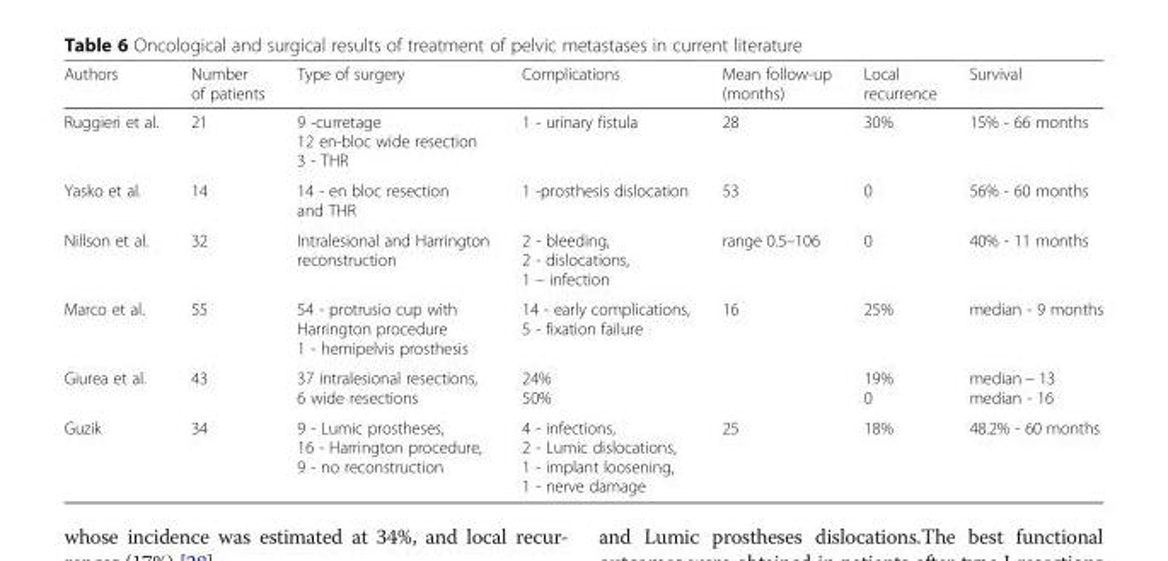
<table><thead><tr><td>Authors</td><td>Number of patients</td><td>Type of surgery</td><td>Complications</td><td>Mean follow-up (months)</td><td>Local recurrence</td><td>Survival</td></tr></thead><tbody><tr><td>Ruggieri et al.</td><td>21</td><td>9 -curretage 12 en-bloc wide resection 3 - THR</td><td>1 - urinary fistula</td><td>28</td><td>30%</td><td>15% - 66 months</td></tr><tr><td>Yasko et al.</td><td>14</td><td>14 - en bloc resection and THR</td><td>1 -prosthesis dislocation</td><td>53</td><td>0</td><td>56% - 60 months</td></tr><tr><td>Nillson et al.</td><td>32</td><td>Intralesional and Harrington reconstruction</td><td>2 - bleeding, 2 - dislocations, 1 – infection</td><td>range 0.5–106</td><td>0</td><td>40% - 11 months</td></tr><tr><td>Marco et al.</td><td>55</td><td>54 - protrusio cup with Harrington procedure 1 - hemipelvis prosthesis</td><td>14 - early complications, 5 - fixation failure</td><td>16</td><td>25%</td><td>median - 9 months</td></tr><tr><td>Giurea et al.</td><td>43</td><td>37 intralesional resections, 6 wide resections</td><td>24% 50%</td><td></td><td>19% 0</td><td>median − 13 median - 16</td></tr><tr><td>Guzik</td><td>34</td><td>9 - Lumic prostheses, 16 - Harrington procedure, 9 - no reconstruction</td><td>4 - infections, 2 - Lumic dislocations, 1 - implant loosening, 1 - nerve damage</td><td>25</td><td>18%</td><td>48.2% - 60 months</td></tr></tbody></table>